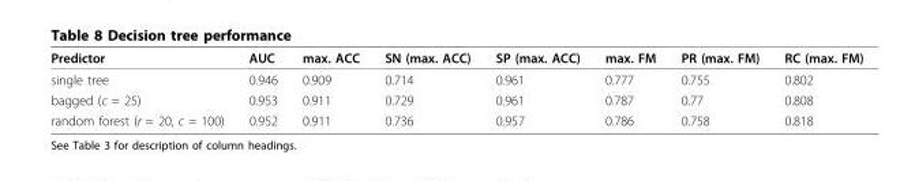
<table><thead><tr><td>Predictor</td><td>AUC</td><td>max. ACC</td><td>SN (max. ACC)</td><td>SP (max. ACC)</td><td>max. FM</td><td>PR (max. FM)</td><td>RC (max. FM)</td></tr></thead><tbody><tr><td>single tree</td><td>0.946</td><td>0.909</td><td>0.714</td><td>0.961</td><td>0.777</td><td>0.755</td><td>0.802</td></tr><tr><td>bagged (c = 25)</td><td>0.953</td><td>0.911</td><td>0.729</td><td>0.961</td><td>0.787</td><td>0.77</td><td>0.808</td></tr><tr><td>random forest (r = 20, c = 100)</td><td>0.952</td><td>0.911</td><td>0.736</td><td>0.957</td><td>0.786</td><td>0.758</td><td>0.818</td></tr></tbody></table>